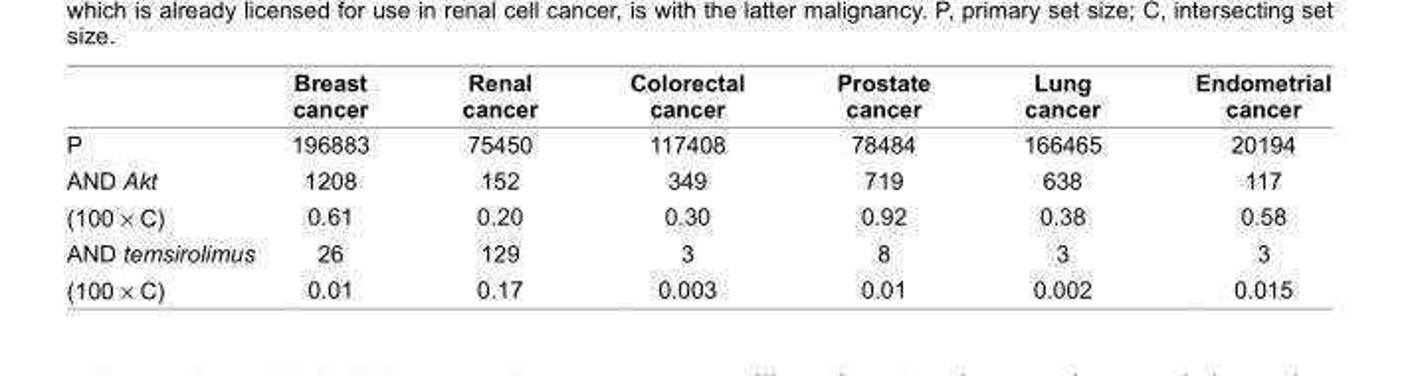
<table><thead><tr><td></td><td>Breast cancer</td><td>Renal cancer</td><td>colorectal cancer</td><td>prostate cancer</td><td>Lung cancer</td><td>endometrial cancer</td></tr></thead><tbody><tr><td>P</td><td>196883</td><td>75450</td><td>117408</td><td>78484</td><td>166465</td><td>20194</td></tr><tr><td>AnD Akt</td><td>1208</td><td>152</td><td>349</td><td>719</td><td>638</td><td>117</td></tr><tr><td>(100 × C)</td><td>0.61</td><td>0.20</td><td>0.30</td><td>0.92</td><td>0.38</td><td>0.58</td></tr><tr><td>AnD temsirolimus</td><td>26</td><td>129</td><td>3</td><td>8</td><td>3</td><td>3</td></tr><tr><td>(100 × C)</td><td>0.01</td><td>0.17</td><td>0.003</td><td>0.01</td><td>0.002</td><td>0.015</td></tr></tbody></table>